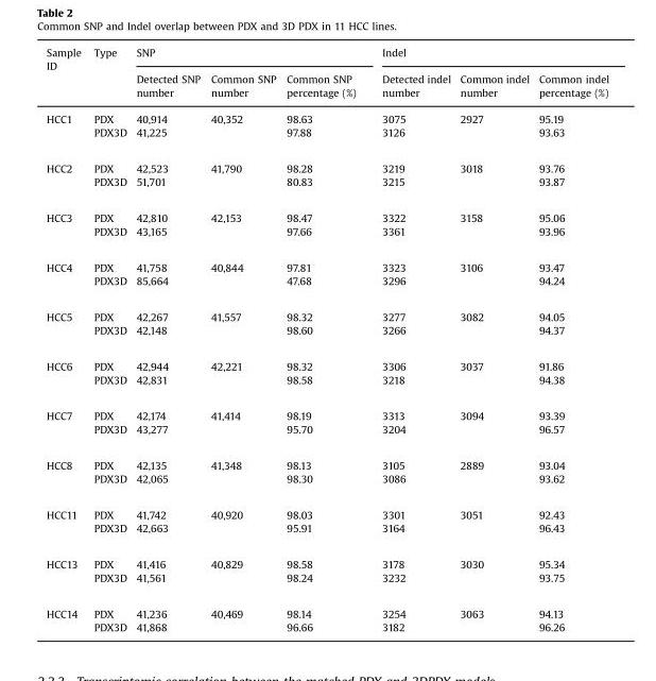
<table><thead><tr><td rowspan="2">Sample ID</td><td rowspan="2">Type</td><td colspan="3">SNP</td><td colspan="3">Indel</td></tr><tr><td>Detected SNP number</td><td>Common SNP number</td><td>Common SNP percentage (%)</td><td>Detected indel number</td><td>Common indel number</td><td>Common indel percentage (%)</td></tr></thead><tbody><tr><td rowspan="2">HCC1</td><td>PDX</td><td>40,914</td><td rowspan="2">40,352</td><td>98.63</td><td>3075</td><td rowspan="2">2927</td><td>95.19</td></tr><tr><td>PDX3D</td><td>41,225</td><td>97.88</td><td>3126</td><td>93.63</td></tr><tr><td rowspan="2">HCC2</td><td>PDX</td><td>42,523</td><td rowspan="2">41,790</td><td>98.28</td><td>3219</td><td rowspan="2">3018</td><td>93.76</td></tr><tr><td>PDX3D</td><td>51,701</td><td>80.83</td><td>3215</td><td>93.87</td></tr><tr><td rowspan="2">HCC3</td><td>PDX</td><td>42,810</td><td rowspan="2">42,153</td><td>98.47</td><td>3322</td><td rowspan="2">3158</td><td>95.06</td></tr><tr><td>PDX3D</td><td>43,165</td><td>97.66</td><td>3361</td><td>93.96</td></tr><tr><td rowspan="2">HCC4</td><td>PDX</td><td>41,758</td><td rowspan="2">40,844</td><td>97.81</td><td>3323</td><td rowspan="2">3106</td><td>93.47</td></tr><tr><td>PDX3D</td><td>85,664</td><td>47.68</td><td>3296</td><td>94.24</td></tr><tr><td rowspan="2">HCC5</td><td>PDX</td><td>42,267</td><td rowspan="2">41,557</td><td>98.32</td><td>3277</td><td rowspan="2">3082</td><td>94.05</td></tr><tr><td>PDX3D</td><td>42,148</td><td>98.60</td><td>3266</td><td>94.37</td></tr><tr><td rowspan="2">HCC6</td><td>PDX</td><td>42,944</td><td rowspan="2">42,221</td><td>98.32</td><td>3306</td><td rowspan="2">3037</td><td>91.86</td></tr><tr><td>PDX3D</td><td>42,831</td><td>98.58</td><td>3218</td><td>94.38</td></tr><tr><td rowspan="2">HCC7</td><td>PDX</td><td>42,174</td><td rowspan="2">41,414</td><td>98.19</td><td>3313</td><td rowspan="2">3094</td><td>93.39</td></tr><tr><td>PDX3D</td><td>43,277</td><td>95.70</td><td>3204</td><td>96.57</td></tr><tr><td rowspan="2">HCC8</td><td>PDX</td><td>42,135</td><td rowspan="2">41,348</td><td>98.13</td><td>3105</td><td rowspan="2">2889</td><td>93.04</td></tr><tr><td>PDX3D</td><td>42,065</td><td>98.30</td><td>3086</td><td>93.62</td></tr><tr><td rowspan="2">HCC11</td><td>PDX</td><td>41,742</td><td rowspan="2">40,920</td><td>98.03</td><td>3301</td><td rowspan="2">3051</td><td>92.43</td></tr><tr><td>PDX3D</td><td>42,663</td><td>95.91</td><td>3164</td><td>96.43</td></tr><tr><td rowspan="2">HCC13</td><td>PDX</td><td>41,416</td><td rowspan="2">40,829</td><td>98.58</td><td>3178</td><td rowspan="2">3030</td><td>95.34</td></tr><tr><td>PDX3D</td><td>41,561</td><td>98.24</td><td>3232</td><td>93.75</td></tr><tr><td rowspan="2">HCC14</td><td>PDX</td><td>41,236</td><td rowspan="2">40,469</td><td>98.14</td><td>3254</td><td rowspan="2">3063</td><td>94.13</td></tr><tr><td>PDX3D</td><td>41,868</td><td>96.66</td><td>3182</td><td>96.26</td></tr></tbody></table>